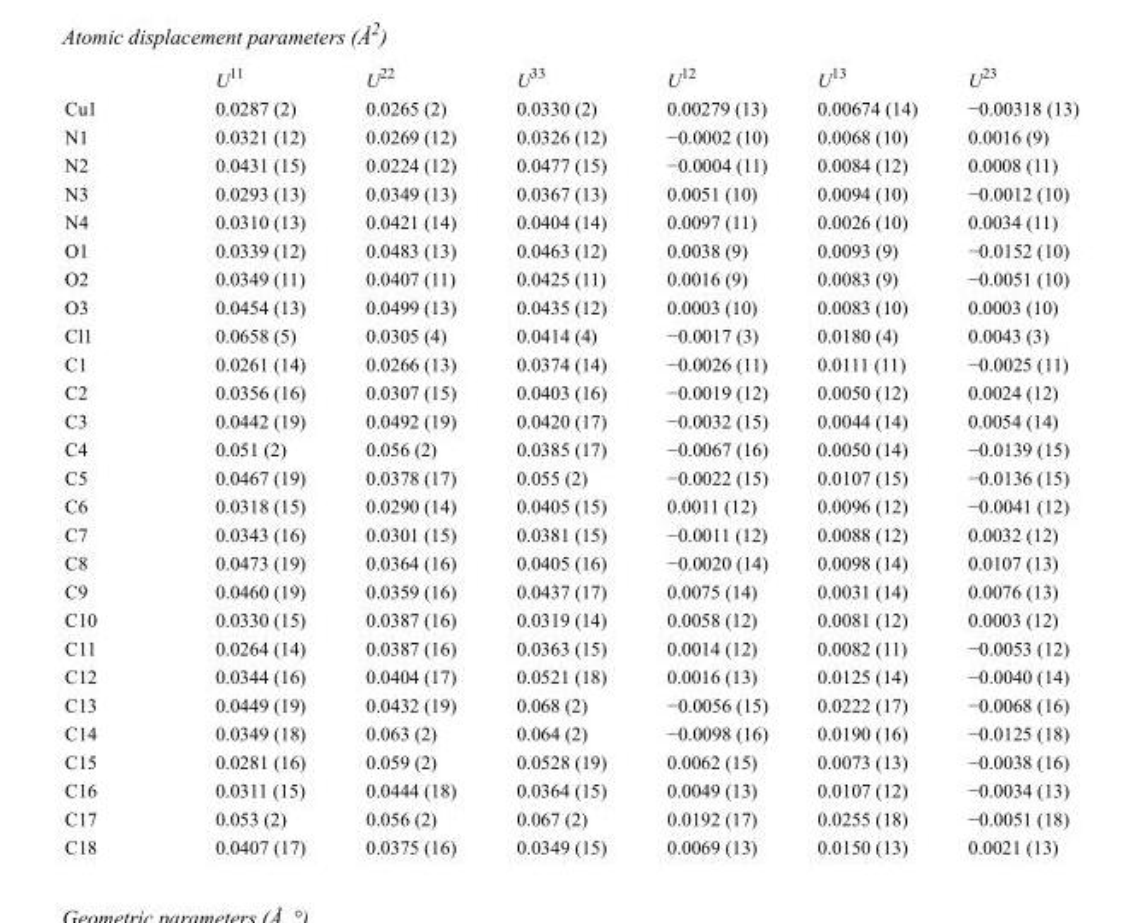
<table><thead><tr><td></td><td>U<sup>11</sup></td><td>U<sup>22</sup></td><td>U<sup>33</sup></td><td>U<sup>12</sup></td><td>U<sup>13</sup></td><td>U<sup>23</sup></td></tr></thead><tbody><tr><td>Cu1</td><td>0.0287 (2)</td><td>0.0265 (2)</td><td>0.0330 (2)</td><td>0.00279 (13)</td><td>0.00674 (14)</td><td>−0.00318 (13)</td></tr><tr><td>N1</td><td>0.0321 (12)</td><td>0.0269 (12)</td><td>0.0326 (12)</td><td>−0.0002 (10)</td><td>0.0068 (10)</td><td>0.0016 (9)</td></tr><tr><td>N2</td><td>0.0431 (15)</td><td>0.0224 (12)</td><td>0.0477 (15)</td><td>−0.0004 (11)</td><td>0.0084 (12)</td><td>0.0008 (11)</td></tr><tr><td>N3</td><td>0.0293 (13)</td><td>0.0349 (13)</td><td>0.0367 (13)</td><td>0.0051 (10)</td><td>0.0094 (10)</td><td>−0.0012 (10)</td></tr><tr><td>N4</td><td>0.0310 (13)</td><td>0.0421 (14)</td><td>0.0404 (14)</td><td>0.0097 (11)</td><td>0.0026 (10)</td><td>0.0034 (11)</td></tr><tr><td>O1</td><td>0.0339 (12)</td><td>0.0483 (13)</td><td>0.0463 (12)</td><td>0.0038 (9)</td><td>0.0093 (9)</td><td>−0.0152 (10)</td></tr><tr><td>O2</td><td>0.0349 (11)</td><td>0.0407 (11)</td><td>0.0425 (11)</td><td>0.0016 (9)</td><td>0.0083 (9)</td><td>−0.0051 (10)</td></tr><tr><td>O3</td><td>0.0454 (13)</td><td>0.0499 (13)</td><td>0.0435 (12)</td><td>0.0003 (10)</td><td>0.0083 (10)</td><td>0.0003 (10)</td></tr><tr><td>Cl1</td><td>0.0658 (5)</td><td>0.0305 (4)</td><td>0.0414 (4)</td><td>−0.0017 (3)</td><td>0.0180 (4)</td><td>0.0043 (3)</td></tr><tr><td>C1</td><td>0.0261 (14)</td><td>0.0266 (13)</td><td>0.0374 (14)</td><td>−0.0026 (11)</td><td>0.0111 (11)</td><td>−0.0025 (11)</td></tr><tr><td>C2</td><td>0.0356 (16)</td><td>0.0307 (15)</td><td>0.0403 (16)</td><td>−0.0019 (12)</td><td>0.0050 (12)</td><td>0.0024 (12)</td></tr><tr><td>C3</td><td>0.0442 (19)</td><td>0.0492 (19)</td><td>0.0420 (17)</td><td>−0.0032 (15)</td><td>0.0044 (14)</td><td>0.0054 (14)</td></tr><tr><td>C4</td><td>0.051 (2)</td><td>0.056 (2)</td><td>0.0385 (17)</td><td>−0.0067 (16)</td><td>0.0050 (14)</td><td>−0.0139 (15)</td></tr><tr><td>C5</td><td>0.0467 (19)</td><td>0.0378 (17)</td><td>0.055 (2)</td><td>−0.0022 (15)</td><td>0.0107 (15)</td><td>−0.0136 (15)</td></tr><tr><td>C6</td><td>0.0318 (15)</td><td>0.0290 (14)</td><td>0.0405 (15)</td><td>0.0011 (12)</td><td>0.0096 (12)</td><td>−0.0041 (12)</td></tr><tr><td>C7</td><td>0.0343 (16)</td><td>0.0301 (15)</td><td>0.0381 (15)</td><td>−0.0011 (12)</td><td>0.0088 (12)</td><td>0.0032 (12)</td></tr><tr><td>C8</td><td>0.0473 (19)</td><td>0.0364 (16)</td><td>0.0405 (16)</td><td>−0.0020 (14)</td><td>0.0098 (14)</td><td>0.0107 (13)</td></tr><tr><td>C9</td><td>0.0460 (19)</td><td>0.0359 (16)</td><td>0.0437 (17)</td><td>0.0075 (14)</td><td>0.0031 (14)</td><td>0.0076 (13)</td></tr><tr><td>C10</td><td>0.0330 (15)</td><td>0.0387 (16)</td><td>0.0319 (14)</td><td>0.0058 (12)</td><td>0.0081 (12)</td><td>0.0003 (12)</td></tr><tr><td>C11</td><td>0.0264 (14)</td><td>0.0387 (16)</td><td>0.0363 (15)</td><td>0.0014 (12)</td><td>0.0082 (11)</td><td>−0.0053 (12)</td></tr><tr><td>C12</td><td>0.0344 (16)</td><td>0.0404 (17)</td><td>0.0521 (18)</td><td>0.0016 (13)</td><td>0.0125 (14)</td><td>−0.0040 (14)</td></tr><tr><td>C13</td><td>0.0449 (19)</td><td>0.0432 (19)</td><td>0.068 (2)</td><td>−0.0056 (15)</td><td>0.0222 (17)</td><td>−0.0068 (16)</td></tr><tr><td>C14</td><td>0.0349 (18)</td><td>0.063 (2)</td><td>0.064 (2)</td><td>−0.0098 (16)</td><td>0.0190 (16)</td><td>−0.0125 (18)</td></tr><tr><td>C15</td><td>0.0281 (16)</td><td>0.059 (2)</td><td>0.0528 (19)</td><td>0.0062 (15)</td><td>0.0073 (13)</td><td>−0.0038 (16)</td></tr><tr><td>C16</td><td>0.0311 (15)</td><td>0.0444 (18)</td><td>0.0364 (15)</td><td>0.0049 (13)</td><td>0.0107 (12)</td><td>−0.0034 (13)</td></tr><tr><td>C17</td><td>0.053 (2)</td><td>0.056 (2)</td><td>0.067 (2)</td><td>0.0192 (17)</td><td>0.0255 (18)</td><td>−0.0051 (18)</td></tr><tr><td>C18</td><td>0.0407 (17)</td><td>0.0375 (16)</td><td>0.0349 (15)</td><td>0.0069 (13)</td><td>0.0150 (13)</td><td>0.0021 (13)</td></tr></tbody></table>